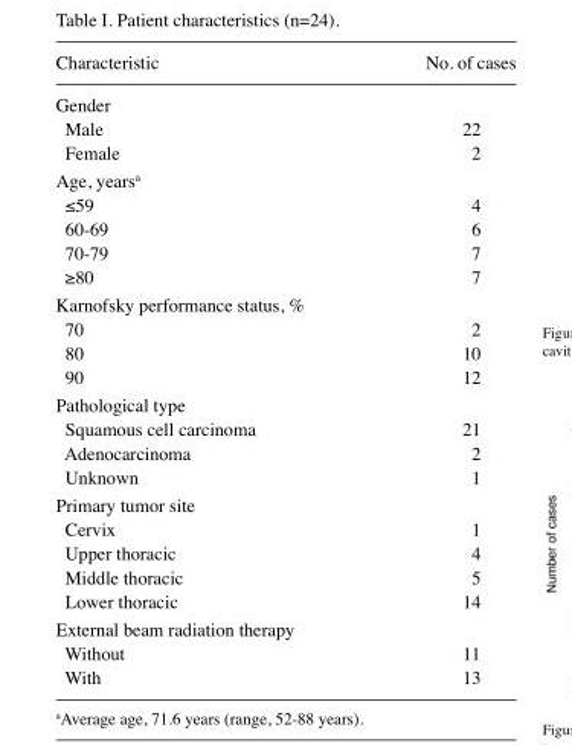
<table><thead><tr><td>Characteristic</td><td>No. of cases</td></tr></thead><tbody><tr><td colspan="2">Gender</td></tr><tr><td>Male</td><td>22</td></tr><tr><td>Female</td><td>2</td></tr><tr><td colspan="2">Age, years<sup>a</sup></td></tr><tr><td>≤59</td><td>4</td></tr><tr><td>60-69</td><td>6</td></tr><tr><td>70-79</td><td>7</td></tr><tr><td>≥80</td><td>7</td></tr><tr><td colspan="2">Karnofsky performance status, %</td></tr><tr><td>70</td><td>2</td></tr><tr><td>80</td><td>10</td></tr><tr><td>90</td><td>12</td></tr><tr><td colspan="2">Pathological type</td></tr><tr><td>Squamous cell carcinoma</td><td>21</td></tr><tr><td>Adenocarcinoma</td><td>2</td></tr><tr><td>Unknown</td><td>1</td></tr><tr><td colspan="2">Primary tumor site</td></tr><tr><td>Cervix</td><td>1</td></tr><tr><td>Upper thoracic</td><td>4</td></tr><tr><td>Middle thoracic</td><td>5</td></tr><tr><td>Lower thoracic</td><td>14</td></tr><tr><td colspan="2">External beam radiation therapy</td></tr><tr><td>Without</td><td>11</td></tr><tr><td>With</td><td>13</td></tr></tbody></table>